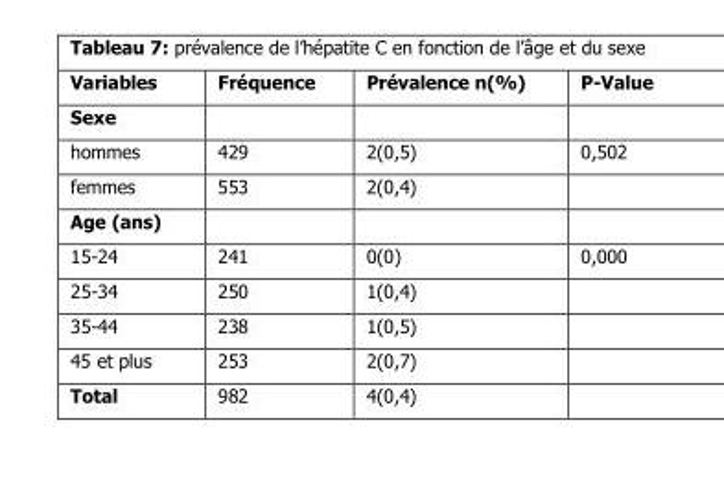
<table><thead><tr><td>Variables</td><td>Fréquence</td><td>Prévalence n(%)</td><td>P-Value</td></tr></thead><tbody><tr><td colspan="4">Sexe</td></tr><tr><td>hommes</td><td>429</td><td>2(0,5)</td><td>0,502</td></tr><tr><td>femmes</td><td>553</td><td>2(0,4)</td><td></td></tr><tr><td colspan="4">Age (ans)</td></tr><tr><td>15-24</td><td>241</td><td>0(0)</td><td>0,000</td></tr><tr><td>25-34</td><td>250</td><td>1(0,4)</td><td></td></tr><tr><td>35-44</td><td>238</td><td>1(0,5)</td><td></td></tr><tr><td>45 et plus</td><td>253</td><td>2(0,7)</td><td></td></tr><tr><td>Total</td><td>982</td><td>4(0,4)</td><td></td></tr></tbody></table>